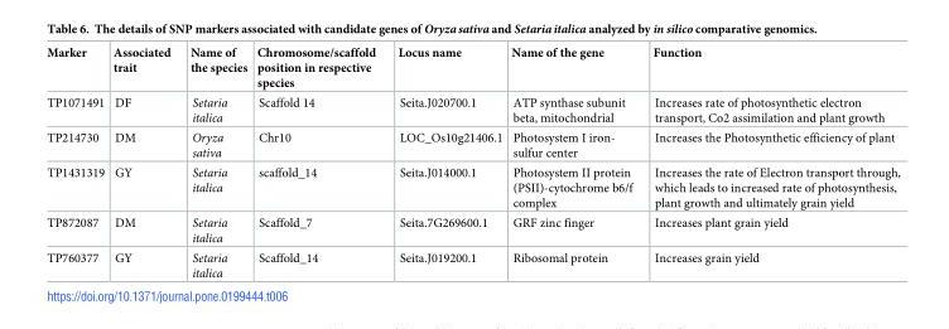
<table><thead><tr><td>Marker</td><td>Associated trait</td><td>Name of the species</td><td>Chromosome/scaffold position in respective species</td><td>Locus name</td><td>Name of the gene</td><td>Function</td></tr></thead><tbody><tr><td>TP1071491</td><td>DF</td><td>Setaria italica</td><td>Scaffold 14</td><td>Seita.J020700.1</td><td>ATP synthase subunit beta, mitochondrial</td><td>Increases rate of photosynthetic electron transport, Co2 assimilation and plant growth</td></tr><tr><td>TP214730</td><td>DM</td><td>Oryza sativa</td><td>Chr10</td><td>LOC_Os10g21406.1</td><td>Photosystem I iron- sulfur center</td><td>Increases the Photosynthetic efficiency of plant</td></tr><tr><td>TP1431319</td><td>GY</td><td>Setaria italica</td><td>scaffold_14</td><td>Seita.J014000.1</td><td>Photosystem II protein (PSII)-cytochrome b6/f complex</td><td>Increases the rate of Electron transport through, which leads to increased rate of photosynthesis, plant growth and ultimately grain yield</td></tr><tr><td>TP872087</td><td>DM</td><td>Setaria italica</td><td>Scaffold_7</td><td>Seita.7G269600.1</td><td>GRF zinc finger</td><td>Increases plant grain yield</td></tr><tr><td>TP760377</td><td>GY</td><td>Setaria italica</td><td>Scaffold_14</td><td>Seita.J019200.1</td><td>Ribosomal protein</td><td>Increases grain yield</td></tr></tbody></table>